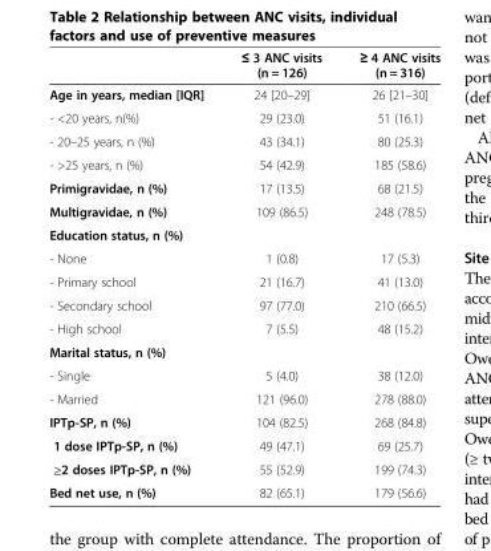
<table><thead><tr><td></td><td>≤ 3 ANC visits (n = 126)</td><td>≥ 4 ANC visits (n = 316)</td></tr></thead><tbody><tr><td>Age in years, median [IQR]</td><td>24 [20–29]</td><td>26 [21–30]</td></tr><tr><td>- &lt;20 years, n(%)</td><td>29 (23.0)</td><td>51 (16.1)</td></tr><tr><td>- 20–25 years, n (%)</td><td>43 (34.1)</td><td>80 (25.3)</td></tr><tr><td>- &gt;25 years, n (%)</td><td>54 (42.9)</td><td>185 (58.6)</td></tr><tr><td>Primigravidae, n (%)</td><td>17 (13.5)</td><td>68 (21.5)</td></tr><tr><td>Multigravidae, n (%)</td><td>109 (86.5)</td><td>248 (78.5)</td></tr><tr><td colspan="3">Education status, n (%)</td></tr><tr><td>- None</td><td>1 (0.8)</td><td>17 (5.3)</td></tr><tr><td>- Primary school</td><td>21 (16.7)</td><td>41 (13.0)</td></tr><tr><td>- Secondary school</td><td>97 (77.0)</td><td>210 (66.5)</td></tr><tr><td>- High school</td><td>7 (5.5)</td><td>48 (15.2)</td></tr><tr><td colspan="3">Marital status, n (%)</td></tr><tr><td>- Single</td><td>5 (4.0)</td><td>38 (12.0)</td></tr><tr><td>- Married</td><td>121 (96.0)</td><td>278 (88.0)</td></tr><tr><td>IPTp-SP, n (%)</td><td>104 (82.5)</td><td>268 (84.8)</td></tr><tr><td>1 dose IPTp-SP, n (%)</td><td>49 (47.1)</td><td>69 (25.7)</td></tr><tr><td>≥2 doses IPTp-SP, n (%)</td><td>55 (52.9)</td><td>199 (74.3)</td></tr><tr><td>Bed net use, n (%)</td><td>82 (65.1)</td><td>179 (56.6)</td></tr></tbody></table>